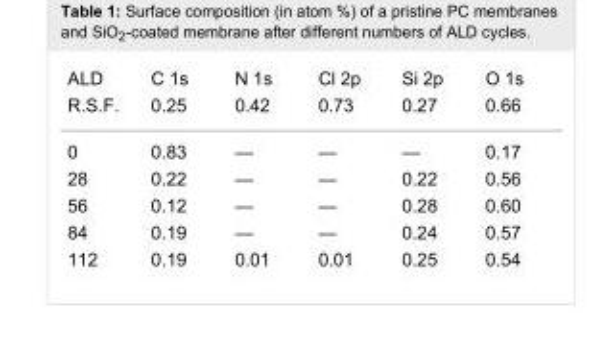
<table><tbody><tr><td>ALD</td><td>C 1s</td><td>N 1s</td><td>Cl 2p</td><td>Si 2p</td><td>O 1s</td></tr><tr><td>R.S.F.</td><td>0.25</td><td>0.42</td><td>0.73</td><td>0.27</td><td>0.66</td></tr><tr><td>0</td><td>0.83</td><td>—</td><td>—</td><td>—</td><td>0.17</td></tr><tr><td>28</td><td>0.22</td><td>—</td><td>—</td><td>0.22</td><td>0.56</td></tr><tr><td>56</td><td>0.12</td><td>—</td><td>—</td><td>0.28</td><td>0.60</td></tr><tr><td>84</td><td>0.19</td><td>—</td><td>—</td><td>0.24</td><td>0.57</td></tr><tr><td>112</td><td>0.19</td><td>0.01</td><td>0.01</td><td>0.25</td><td>0.54</td></tr></tbody></table>